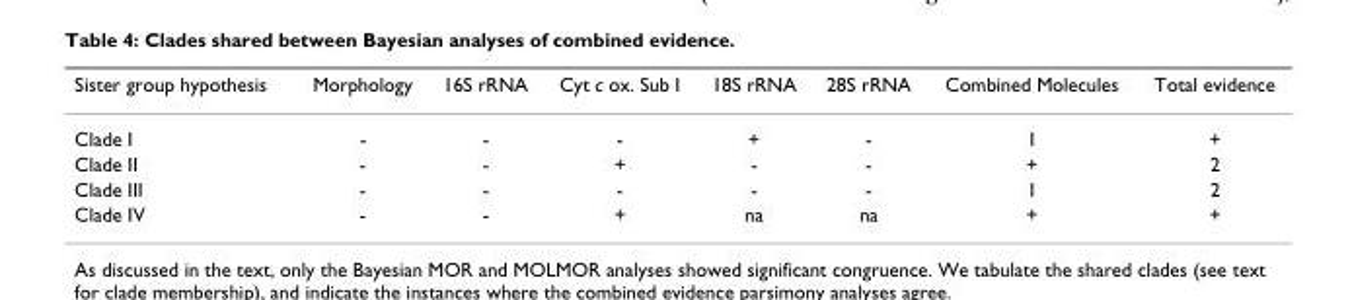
<table><thead><tr><td>Sister group hypothesis</td><td>Morphology</td><td>16S rRNA</td><td>Cyt c ox. Sub I</td><td>18S rRNA</td><td>28S rRNA</td><td>Combined Molecules</td><td>Total evidence</td></tr></thead><tbody><tr><td>Clade I</td><td>-</td><td>-</td><td>-</td><td>+</td><td>-</td><td>1</td><td>+</td></tr><tr><td>Clade II</td><td>-</td><td>-</td><td>+</td><td>-</td><td>-</td><td>+</td><td>2</td></tr><tr><td>Clade III</td><td>-</td><td>-</td><td>-</td><td>-</td><td>-</td><td>1</td><td>2</td></tr><tr><td>Clade IV</td><td>-</td><td>-</td><td>+</td><td>na</td><td>na</td><td>+</td><td>+</td></tr></tbody></table>